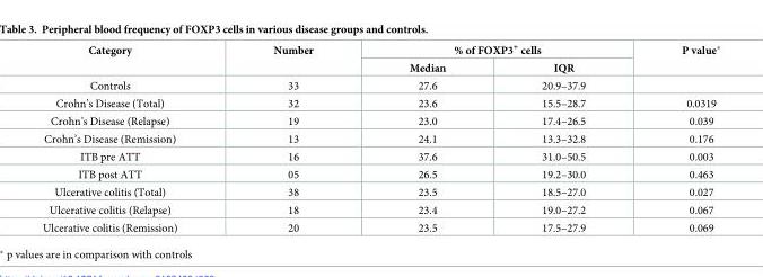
<table><thead><tr><td rowspan="2">Category</td><td rowspan="2">Number</td><td colspan="2">% of FOXP3<sup>+</sup> cells</td><td rowspan="2">P value*</td></tr><tr><td>Median</td><td>IQR</td></tr></thead><tbody><tr><td>Controls</td><td>33</td><td>27.6</td><td>20.9–37.9</td><td></td></tr><tr><td>Crohn’s Disease (Total)</td><td>32</td><td>23.6</td><td>15.5–28.7</td><td>0.0319</td></tr><tr><td>Crohn’s Disease (Relapse)</td><td>19</td><td>23.0</td><td>17.4–26.5</td><td>0.039</td></tr><tr><td>Crohn’s Disease (Remission)</td><td>13</td><td>24.1</td><td>13.3–32.8</td><td>0.176</td></tr><tr><td>ITB pre ATT</td><td>16</td><td>37.6</td><td>31.0–50.5</td><td>0.003</td></tr><tr><td>ITB post ATT</td><td>05</td><td>26.5</td><td>19.2–30.0</td><td>0.463</td></tr><tr><td>Ulcerative colitis (Total)</td><td>38</td><td>23.5</td><td>18.5–27.0</td><td>0.027</td></tr><tr><td>Ulcerative colitis (Relapse)</td><td>18</td><td>23.4</td><td>19.0–27.2</td><td>0.067</td></tr><tr><td>Ulcerative colitis (Remission)</td><td>20</td><td>23.5</td><td>17.5–27.9</td><td>0.069</td></tr></tbody></table>